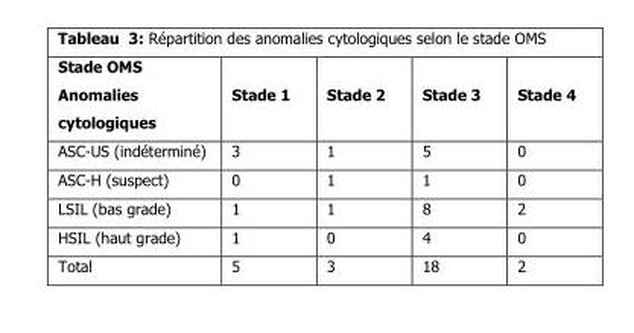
<table><thead><tr><td>Stade OMS Anomalies cytologiques</td><td>Stade 1</td><td>Stade 2</td><td>Stade 3</td><td>Stade 4</td></tr></thead><tbody><tr><td>ASC-US (indéterminé)</td><td>3</td><td>1</td><td>5</td><td>0</td></tr><tr><td>ASC-H (suspect)</td><td>0</td><td>1</td><td>1</td><td>0</td></tr><tr><td>LSIL (bas grade)</td><td>1</td><td>1</td><td>8</td><td>2</td></tr><tr><td>HSIL (haut grade)</td><td>1</td><td>0</td><td>4</td><td>0</td></tr><tr><td>Total</td><td>5</td><td>3</td><td>18</td><td>2</td></tr></tbody></table>